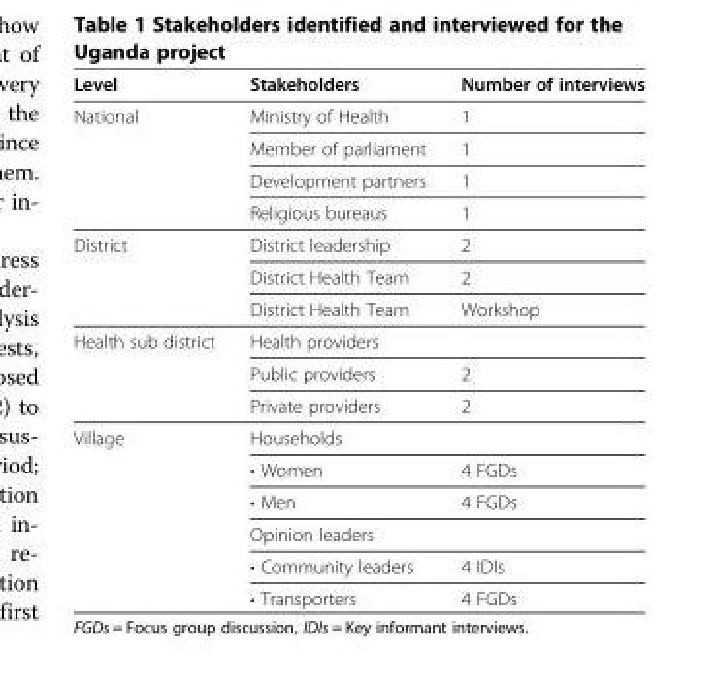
<table><thead><tr><td>Level</td><td>Stakeholders</td><td>Number of interviews</td></tr></thead><tbody><tr><td rowspan="4">National</td><td>Ministry of Health</td><td>1</td></tr><tr><td>Member of parliament</td><td>1</td></tr><tr><td>Development partners</td><td>1</td></tr><tr><td>Religious bureaus</td><td>1</td></tr><tr><td rowspan="3">District</td><td>District leadership</td><td>2</td></tr><tr><td>District Health Team</td><td>2</td></tr><tr><td>District Health Team</td><td>Workshop</td></tr><tr><td rowspan="3">Health sub district</td><td>Health providers</td><td></td></tr><tr><td>Public providers</td><td>2</td></tr><tr><td>Private providers</td><td>2</td></tr><tr><td rowspan="6">Village</td><td>Households</td><td></td></tr><tr><td>• Women</td><td>4 FGDs</td></tr><tr><td>• Men</td><td>4 FGDs</td></tr><tr><td>Opinion leaders</td><td></td></tr><tr><td>• Community leaders</td><td>4 IDIs</td></tr><tr><td>• Transporters</td><td>4 FGDs</td></tr></tbody></table>